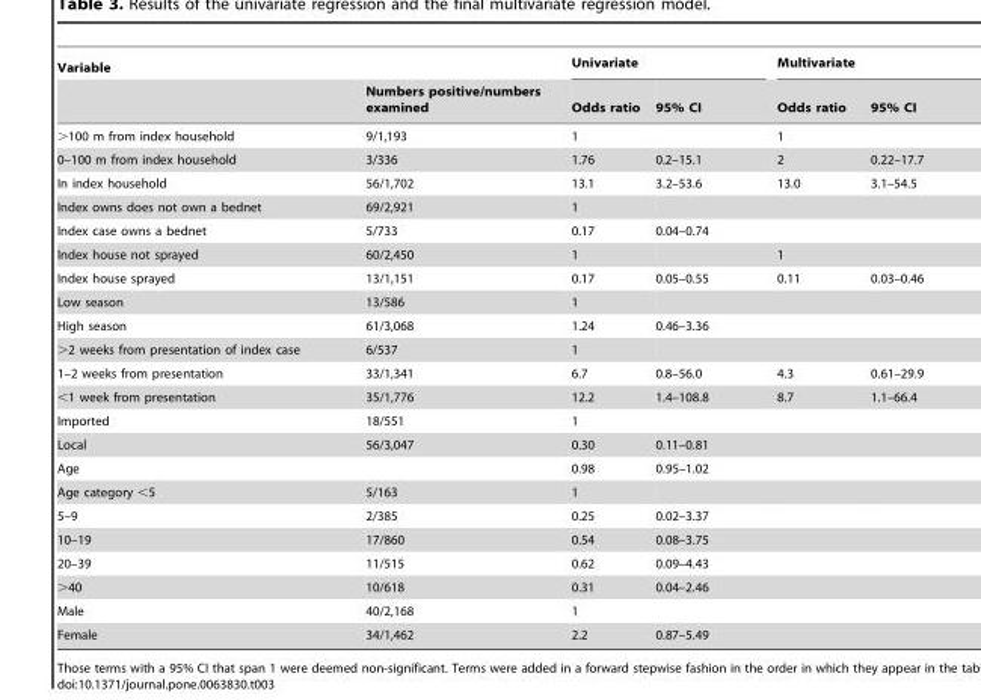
<table><thead><tr><td rowspan="2">Variable</td><td rowspan="2">Numbers positive/numbers examined</td><td colspan="2">Univariate</td><td colspan="2">Multivariate</td></tr><tr><td>Odds ratio</td><td>95% CI</td><td>Odds ratio</td><td>95% CI</td></tr></thead><tbody><tr><td>&gt;100 m from index household</td><td>9/1,193</td><td>1</td><td></td><td>1</td><td></td></tr><tr><td>0–100 m from index household</td><td>3/336</td><td>1.76</td><td>0.2–15.1</td><td>2</td><td>0.22–17.7</td></tr><tr><td>In index household</td><td>56/1,702</td><td>13.1</td><td>3.2–53.6</td><td>13.0</td><td>3.1–54.5</td></tr><tr><td>Index owns does not own a bednet</td><td>69/2,921</td><td>1</td><td></td><td></td><td></td></tr><tr><td>Index case owns a bednet</td><td>5/733</td><td>0.17</td><td>0.04–0.74</td><td></td><td></td></tr><tr><td>Index house not sprayed</td><td>60/2,450</td><td>1</td><td></td><td>1</td><td></td></tr><tr><td>Index house sprayed</td><td>13/1,151</td><td>0.17</td><td>0.05–0.55</td><td>0.11</td><td>0.03–0.46</td></tr><tr><td>Low season</td><td>13/586</td><td>1</td><td></td><td></td><td></td></tr><tr><td>High season</td><td>61/3,068</td><td>1.24</td><td>0.46–3.36</td><td></td><td></td></tr><tr><td>&gt;2 weeks from presentation of index case</td><td>6/537</td><td>1</td><td></td><td></td><td></td></tr><tr><td>1–2 weeks from presentation</td><td>33/1,341</td><td>6.7</td><td>0.8–56.0</td><td>4.3</td><td>0.61–29.9</td></tr><tr><td>&lt;1 week from presentation</td><td>35/1,776</td><td>12.2</td><td>1.4–108.8</td><td>8.7</td><td>1.1–66.4</td></tr><tr><td>Imported</td><td>18/551</td><td>1</td><td></td><td></td><td></td></tr><tr><td>Local</td><td>56/3,047</td><td>0.30</td><td>0.11–0.81</td><td></td><td></td></tr><tr><td>Age</td><td></td><td>0.98</td><td>0.95–1.02</td><td></td><td></td></tr><tr><td>Age category &lt;5</td><td>5/163</td><td>1</td><td></td><td></td><td></td></tr><tr><td>5–9</td><td>2/385</td><td>0.25</td><td>0.02–3.37</td><td></td><td></td></tr><tr><td>10–19</td><td>17/860</td><td>0.54</td><td>0.08–3.75</td><td></td><td></td></tr><tr><td>20–39</td><td>11/515</td><td>0.62</td><td>0.09–4.43</td><td></td><td></td></tr><tr><td>&gt;40</td><td>10/618</td><td>0.31</td><td>0.04–2.46</td><td></td><td></td></tr><tr><td>Male</td><td>40/2,168</td><td>1</td><td></td><td></td><td></td></tr><tr><td>Female</td><td>34/1,462</td><td>2.2</td><td>0.87–5.49</td><td></td><td></td></tr></tbody></table>